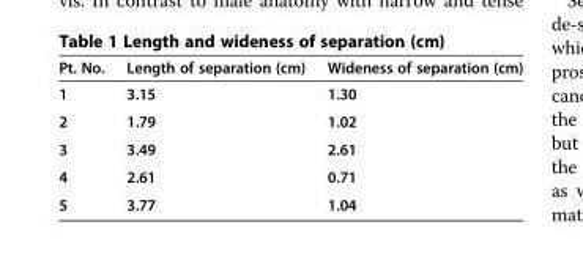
<table><thead><tr><td>Pt. No.</td><td>Length of separation (cm)</td><td>Wideness of separation (cm)</td></tr></thead><tbody><tr><td>1</td><td>3.15</td><td>1.30</td></tr><tr><td>2</td><td>1.79</td><td>1.02</td></tr><tr><td>3</td><td>3.49</td><td>2.61</td></tr><tr><td>4</td><td>2.61</td><td>0.71</td></tr><tr><td>5</td><td>3.77</td><td>1.04</td></tr></tbody></table>